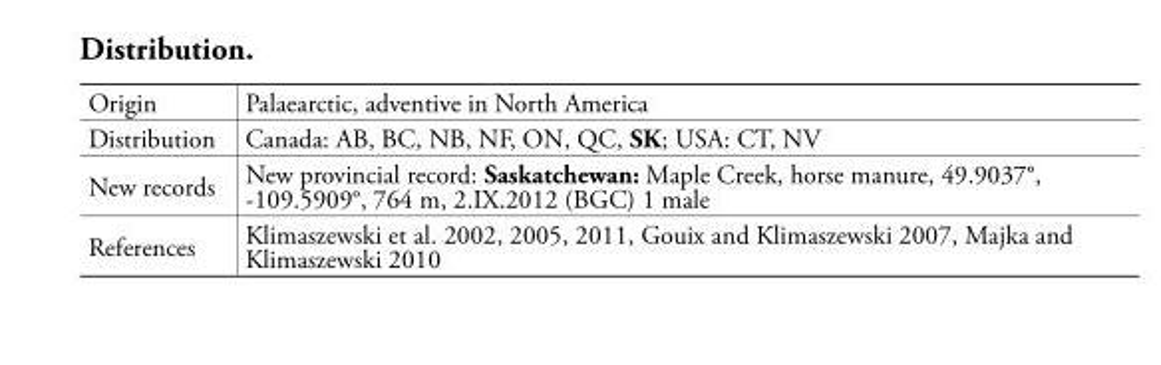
<table><tbody><tr><td>Origin</td><td>Palaearctic, adventive in North America</td></tr><tr><td>Distribution</td><td>Canada: AB, BC, NB, NF, ON, QC, SK; USA: CT, NV</td></tr><tr><td>New records</td><td>New provincial record: Saskatchewan: Maple Creek, horse manure, 49.9037°, -109.5909°, 764 m, 2.IX.2012 (BGC) 1 male</td></tr><tr><td>References</td><td>Klimaszewski et al. 2002, 2005, 2011, Gouix and Klimaszewski 2007, Majka and Klimaszewski 2010</td></tr></tbody></table>